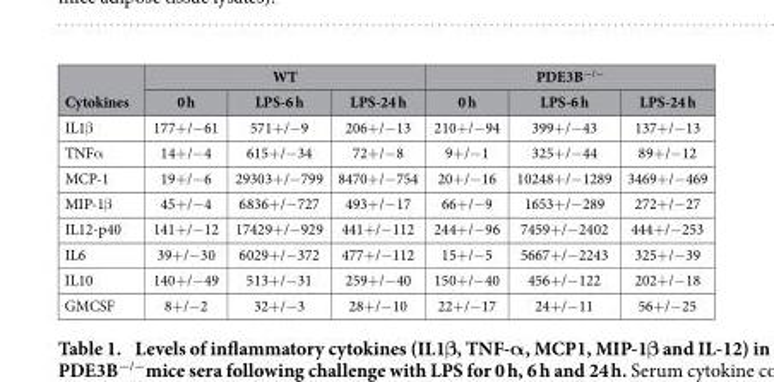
<table><thead><tr><td rowspan="2">Cytokines</td><td colspan="3">WT</td><td colspan="3">PDE3B<sup>−/−</sup></td></tr><tr><td>0 h</td><td>LPS-6 h</td><td>LPS-24 h</td><td>0 h</td><td>LPS-6 h</td><td>LPS-24 h</td></tr></thead><tbody><tr><td>IL1β</td><td>177+ /− 61</td><td>571+ /− 9</td><td>206+ /− 13</td><td>210+ /− 94</td><td>399+ /− 43</td><td>137+ /− 13</td></tr><tr><td>TNFα</td><td>14+ /− 4</td><td>615+ /− 34</td><td>72+ /− 8</td><td>9+ /− 1</td><td>325+ /− 44</td><td>89+ /− 12</td></tr><tr><td>MCP-1</td><td>19+ /− 6</td><td>29303+ /− 799</td><td>8470+ /− 754</td><td>20+ /− 16</td><td>10248+ /− 1289</td><td>3469+ /− 469</td></tr><tr><td>MIP-1β</td><td>45+ /− 4</td><td>6836+ /− 727</td><td>493+ /− 17</td><td>66+ /− 9</td><td>1653+ /− 289</td><td>272+ /− 27</td></tr><tr><td>IL12-p40</td><td>141+ /− 12</td><td>17429+ /− 929</td><td>441+ /− 112</td><td>244+ /− 96</td><td>7459+ /− 2402</td><td>444+ /− 253</td></tr><tr><td>IL6</td><td>39+ /− 30</td><td>6029+ /− 372</td><td>477+ /− 112</td><td>15+ /− 5</td><td>5667+ /− 2243</td><td>325+ /− 39</td></tr><tr><td>IL10</td><td>140+ /− 49</td><td>513+ /− 31</td><td>259+ /− 40</td><td>150+ /− 40</td><td>456+ /− 122</td><td>202+ /− 18</td></tr><tr><td>GMCSF</td><td>8+ /− 2</td><td>32+ /− 3</td><td>28+ /− 10</td><td>22+ /− 17</td><td>24+ /− 11</td><td>56+ /− 25</td></tr></tbody></table>